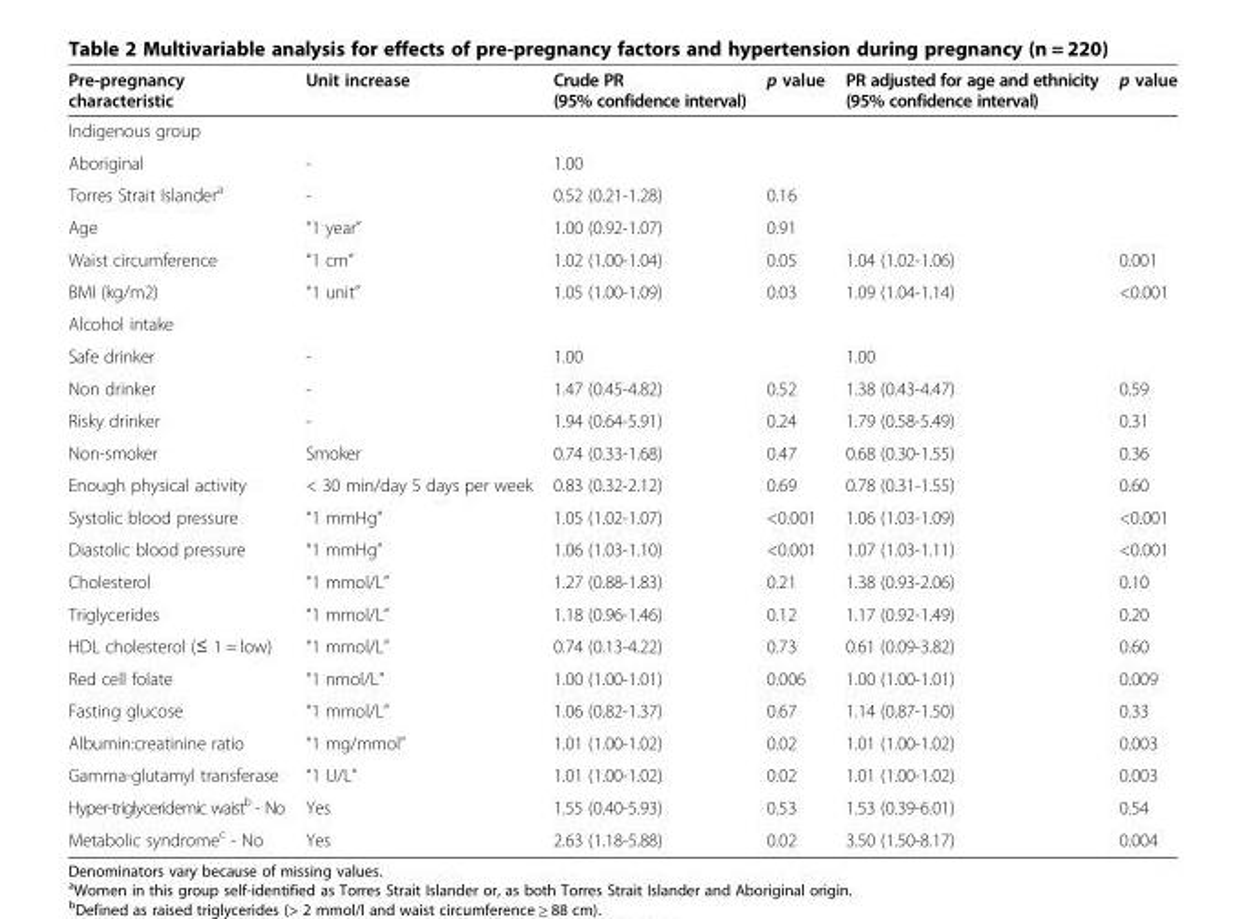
<table><thead><tr><td>Pre-pregnancy characteristic</td><td>Unit increase</td><td>Crude PR (95% confidence interval)</td><td>p value</td><td>PR adjusted for age and ethnicity (95% confidence interval)</td><td>p value</td></tr></thead><tbody><tr><td colspan="6">Indigenous group</td></tr><tr><td>Aboriginal</td><td>-</td><td>1.00</td><td></td><td></td><td></td></tr><tr><td>Torres Strait Islander<sup>a</sup></td><td>-</td><td>0.52 (0.21-1.28)</td><td>0.16</td><td></td><td></td></tr><tr><td>Age</td><td>“1 year”</td><td>1.00 (0.92-1.07)</td><td>0.91</td><td></td><td></td></tr><tr><td>Waist circumference</td><td>“1 cm”</td><td>1.02 (1.00-1.04)</td><td>0.05</td><td>1.04 (1.02-1.06)</td><td>0.001</td></tr><tr><td>BMI (kg/m2)</td><td>“1 unit”</td><td>1.05 (1.00-1.09)</td><td>0.03</td><td>1.09 (1.04-1.14)</td><td>&lt;0.001</td></tr><tr><td colspan="6">Alcohol intake</td></tr><tr><td>Safe drinker</td><td>-</td><td>1.00</td><td></td><td>1.00</td><td></td></tr><tr><td>Non drinker</td><td>-</td><td>1.47 (0.45-4.82)</td><td>0.52</td><td>1.38 (0.43-4.47)</td><td>0.59</td></tr><tr><td>Risky drinker</td><td>-</td><td>1.94 (0.64-5.91)</td><td>0.24</td><td>1.79 (0.58-5.49)</td><td>0.31</td></tr><tr><td>Non-smoker</td><td>Smoker</td><td>0.74 (0.33-1.68)</td><td>0.47</td><td>0.68 (0.30-1.55)</td><td>0.36</td></tr><tr><td>Enough physical activity</td><td>&lt; 30 min/day 5 days per week</td><td>0.83 (0.32-2.12)</td><td>0.69</td><td>0.78 (0.31-1.55)</td><td>0.60</td></tr><tr><td>Systolic blood pressure</td><td>“1 mmHg”</td><td>1.05 (1.02-1.07)</td><td>&lt;0.001</td><td>1.06 (1.03-1.09)</td><td>&lt;0.001</td></tr><tr><td>Diastolic blood pressure</td><td>“1 mmHg”</td><td>1.06 (1.03-1.10)</td><td>&lt;0.001</td><td>1.07 (1.03-1.11)</td><td>&lt;0.001</td></tr><tr><td>Cholesterol</td><td>“1 mmol/L”</td><td>1.27 (0.88-1.83)</td><td>0.21</td><td>1.38 (0.93-2.06)</td><td>0.10</td></tr><tr><td>Triglycerides</td><td>“1 mmol/L”</td><td>1.18 (0.96-1.46)</td><td>0.12</td><td>1.17 (0.92-1.49)</td><td>0.20</td></tr><tr><td>HDL cholesterol (≤ 1 = low)</td><td>“1 mmol/L”</td><td>0.74 (0.13-4.22)</td><td>0.73</td><td>0.61 (0.09-3.82)</td><td>0.60</td></tr><tr><td>Red cell folate</td><td>“1 nmol/L”</td><td>1.00 (1.00-1.01)</td><td>0.006</td><td>1.00 (1.00-1.01)</td><td>0.009</td></tr><tr><td>Fasting glucose</td><td>“1 mmol/L”</td><td>1.06 (0.82-1.37)</td><td>0.67</td><td>1.14 (0.87-1.50)</td><td>0.33</td></tr><tr><td>Albumin:creatinine ratio</td><td>“1 mg/mmol”</td><td>1.01 (1.00-1.02)</td><td>0.02</td><td>1.01 (1.00-1.02)</td><td>0.003</td></tr><tr><td>Gamma-glutamyl transferase</td><td>“1 U/L”</td><td>1.01 (1.00-1.02)</td><td>0.02</td><td>1.01 (1.00-1.02)</td><td>0.003</td></tr><tr><td>Hyper-triglyceridemic waist<sup>b</sup> - No</td><td>Yes</td><td>1.55 (0.40-5.93)</td><td>0.53</td><td>1.53 (0.39-6.01)</td><td>0.54</td></tr><tr><td>Metabolic syndrome<sup>c</sup> - No</td><td>Yes</td><td>2.63 (1.18-5.88)</td><td>0.02</td><td>3.50 (1.50-8.17)</td><td>0.004</td></tr></tbody></table>